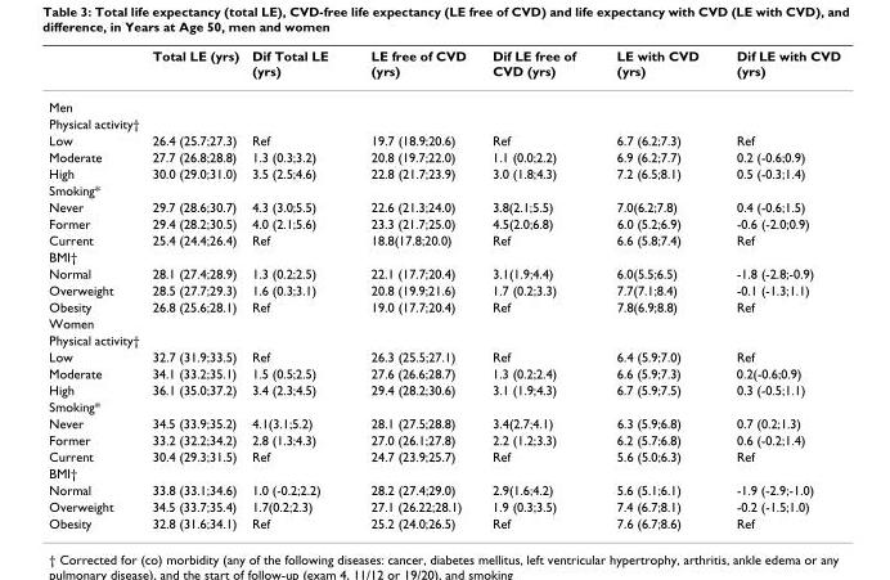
<table><thead><tr><td></td><td>Total LE (yrs)</td><td>Dif Total LE (yrs)</td><td>LE free of CVD (yrs)</td><td>Dif LE free of CVD (yrs)</td><td>LE with CVD (yrs)</td><td>Dif LE with CVD (yrs)</td></tr></thead><tbody><tr><td colspan="7">Men</td></tr><tr><td colspan="7">Physical activity†</td></tr><tr><td>Low</td><td>26.4 (25.7;27.3)</td><td>Ref</td><td>19.7 (18.9;20.6)</td><td>Ref</td><td>6.7 (6.2;7.3)</td><td>Ref</td></tr><tr><td>Moderate</td><td>27.7 (26.8;28.8)</td><td>1.3 (0.3;3.2)</td><td>20.8 (19.7;22.0)</td><td>1.1 (0.0;2.2)</td><td>6.9 (6.2;7.7)</td><td>0.2 (-0.6;0.9)</td></tr><tr><td>High</td><td>30.0 (29.0;31.0)</td><td>3.5 (2.5;4.6)</td><td>22.8 (21.7;23.9)</td><td>3.0 (1.8;4.3)</td><td>7.2 (6.5;8.1)</td><td>0.5 (-0.3;1.4)</td></tr><tr><td colspan="7">Smoking*</td></tr><tr><td>Never</td><td>29.7 (28.6;30.7)</td><td>4.3 (3.0;5.5)</td><td>22.6 (21.3;24.0)</td><td>3.8(2.1;5.5)</td><td>7.0(6.2;7.8)</td><td>0.4 (-0.6;1.5)</td></tr><tr><td>Former</td><td>29.4 (28.2;30.5)</td><td>4.0 (2.1;5.6)</td><td>23.3 (21.7;25.0)</td><td>4.5(2.0;6.8)</td><td>6.0 (5.2;6.9)</td><td>-0.6 (-2.0;0.9)</td></tr><tr><td>Current</td><td>25.4 (24.4;26.4)</td><td>Ref</td><td>18.8(17.8;20.0)</td><td>Ref</td><td>6.6 (5.8;7.4)</td><td>Ref</td></tr><tr><td colspan="7">BMI†</td></tr><tr><td>Normal</td><td>28.1 (27.4;28.9)</td><td>1.3 (0.2;2.5)</td><td>22.1 (17.7;20.4)</td><td>3.1(1.9;4.4)</td><td>6.0(5.5;6.5)</td><td>-1.8 (-2.8;-0.9)</td></tr><tr><td>Overweight</td><td>28.5 (27.7;29.3)</td><td>1.6 (0.3;3.1)</td><td>20.8 (19.9;21.6)</td><td>1.7 (0.2;3.3)</td><td>7.7(7.1;8.4)</td><td>-0.1 (-1.3;1.1)</td></tr><tr><td>Obesity</td><td>26.8 (25.6;28.1)</td><td>Ref</td><td>19.0 (17.7;20.4)</td><td>Ref</td><td>7.8(6.9;8.8)</td><td>Ref</td></tr><tr><td colspan="7">Women</td></tr><tr><td colspan="7">Physical activity†</td></tr><tr><td>Low</td><td>32.7 (31.9;33.5)</td><td>Ref</td><td>26.3 (25.5;27.1)</td><td>Ref</td><td>6.4 (5.9;7.0)</td><td>Ref</td></tr><tr><td>Moderate</td><td>34.1 (33.2;35.1)</td><td>1.5 (0.5;2.5)</td><td>27.6 (26.6;28.7)</td><td>1.3 (0.2;2.4)</td><td>6.6 (5.9;7.3)</td><td>0.2(-0.6;0.9)</td></tr><tr><td>High</td><td>36.1 (35.0;37.2)</td><td>3.4 (2.3;4.5)</td><td>29.4 (28.2;30.6)</td><td>3.1 (1.9;4.3)</td><td>6.7 (5.9;7.5)</td><td>0.3 (-0.5;1.1)</td></tr><tr><td colspan="7">Smoking*</td></tr><tr><td>Never</td><td>34.5 (33.9;35.2)</td><td>4.1(3.1;5.2)</td><td>28.1 (27.5;28.8)</td><td>3.4(2.7;4.1)</td><td>6.3 (5.9;6.8)</td><td>0.7 (0.2;1.3)</td></tr><tr><td>Former</td><td>33.2 (32.2;34.2)</td><td>2.8 (1.3;4.3)</td><td>27.0 (26.1;27.8)</td><td>2.2 (1.2;3.3)</td><td>6.2 (5.7;6.8)</td><td>0.6 (-0.2;1.4)</td></tr><tr><td>Current</td><td>30.4 (29.3;31.5)</td><td>Ref</td><td>24.7 (23.9;25.7)</td><td>Ref</td><td>5.6 (5.0;6.3)</td><td>Ref</td></tr><tr><td colspan="7">BMI†</td></tr><tr><td>Normal</td><td>33.8 (33.1;34.6)</td><td>1.0 (-0.2;2.2)</td><td>28.2 (27.4;29.0)</td><td>2.9(1.6;4.2)</td><td>5.6 (5.1;6.1)</td><td>-1.9 (-2.9;-1.0)</td></tr><tr><td>Overweight</td><td>34.5 (33.7;35.4)</td><td>1.7(0.2;2.3)</td><td>27.1 (26.22;28.1)</td><td>1.9 (0.3;3.5)</td><td>7.4 (6.7;8.1)</td><td>-0.2 (-1.5;1.0)</td></tr><tr><td>Obesity</td><td>32.8 (31.6;34.1)</td><td>Ref</td><td>25.2 (24.0;26.5)</td><td>Ref</td><td>7.6 (6.7;8.6)</td><td>Ref</td></tr></tbody></table>